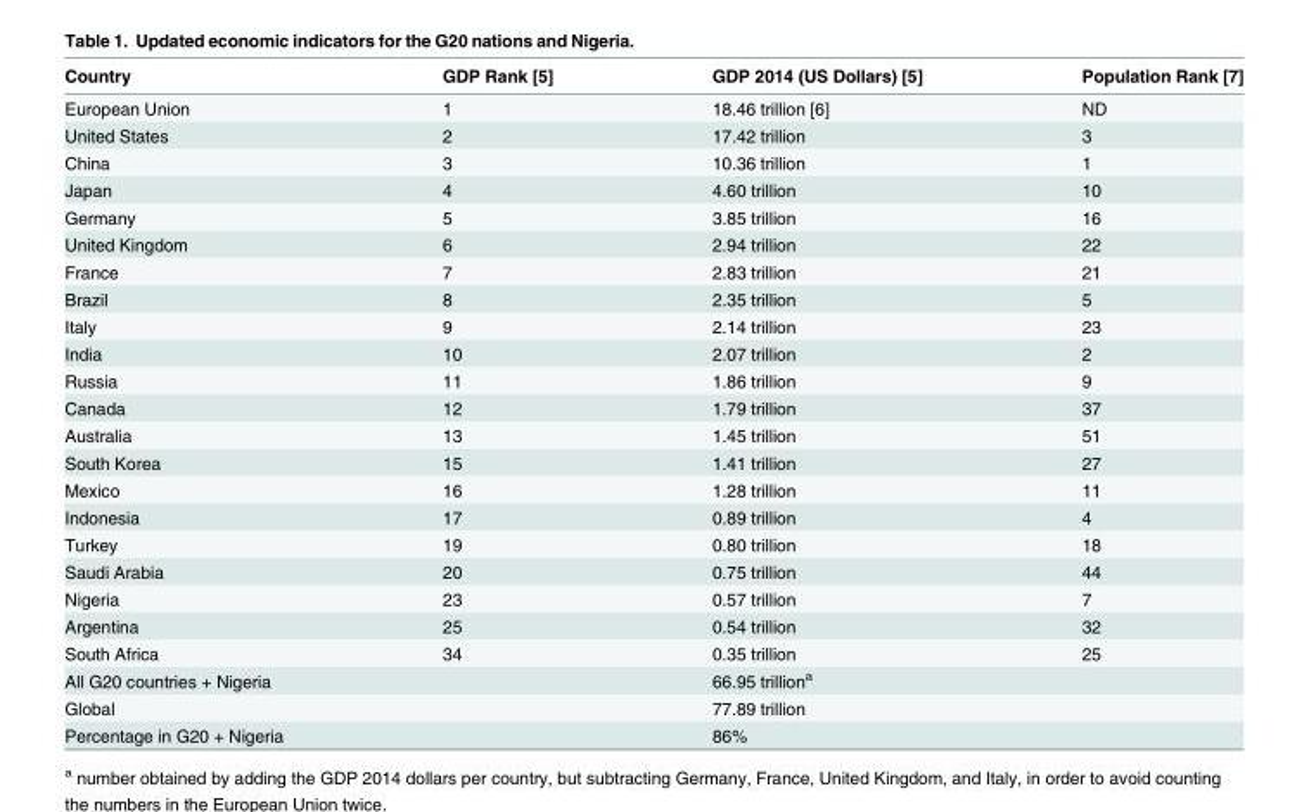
<table><thead><tr><td>Country</td><td>GDP Rank [5]</td><td>GDP 2014 (US Dollars) [5]</td><td>Population Rank [7]</td></tr></thead><tbody><tr><td>European Union</td><td>1</td><td>18.46 trillion [6]</td><td>ND</td></tr><tr><td>United States</td><td>2</td><td>17.42 trillion</td><td>3</td></tr><tr><td>China</td><td>3</td><td>10.36 trillion</td><td>1</td></tr><tr><td>Japan</td><td>4</td><td>4.60 trillion</td><td>10</td></tr><tr><td>Germany</td><td>5</td><td>3.85 trillion</td><td>16</td></tr><tr><td>United Kingdom</td><td>6</td><td>2.94 trillion</td><td>22</td></tr><tr><td>France</td><td>7</td><td>2.83 trillion</td><td>21</td></tr><tr><td>Brazil</td><td>8</td><td>2.35 trillion</td><td>5</td></tr><tr><td>Italy</td><td>9</td><td>2.14 trillion</td><td>23</td></tr><tr><td>India</td><td>10</td><td>2.07 trillion</td><td>2</td></tr><tr><td>Russia</td><td>11</td><td>1.86 trillion</td><td>9</td></tr><tr><td>Canada</td><td>12</td><td>1.79 trillion</td><td>37</td></tr><tr><td>Australia</td><td>13</td><td>1.45 trillion</td><td>51</td></tr><tr><td>South Korea</td><td>15</td><td>1.41 trillion</td><td>27</td></tr><tr><td>Mexico</td><td>16</td><td>1.28 trillion</td><td>11</td></tr><tr><td>Indonesia</td><td>17</td><td>0.89 trillion</td><td>4</td></tr><tr><td>Turkey</td><td>19</td><td>0.80 trillion</td><td>18</td></tr><tr><td>Saudi Arabia</td><td>20</td><td>0.75 trillion</td><td>44</td></tr><tr><td>Nigeria</td><td>23</td><td>0.57 trillion</td><td>7</td></tr><tr><td>Argentina</td><td>25</td><td>0.54 trillion</td><td>32</td></tr><tr><td>South Africa</td><td>34</td><td>0.35 trillion</td><td>25</td></tr><tr><td>All G20 countries + Nigeria</td><td></td><td>66.95 trillion<sup>a</sup></td><td></td></tr><tr><td>Global</td><td></td><td>77.89 trillion</td><td></td></tr><tr><td>Percentage in G20 + Nigeria</td><td></td><td>86%</td><td></td></tr></tbody></table>